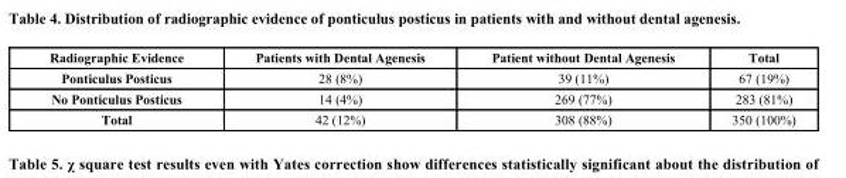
<table><thead><tr><td>Radiographic Evidence</td><td>Patients with Dental Agenesis</td><td>Patient without Dental Agenesis</td><td>Total</td></tr></thead><tbody><tr><td>Ponticulus Posticus</td><td>28 (8%)</td><td>39 (11%)</td><td>67 (19%)</td></tr><tr><td>No Ponticulus Posticus</td><td>14 (4%)</td><td>269 (77%)</td><td>283 (81%)</td></tr><tr><td>Total</td><td>42 (12%)</td><td>308 (88%)</td><td>350 (100%)</td></tr></tbody></table>